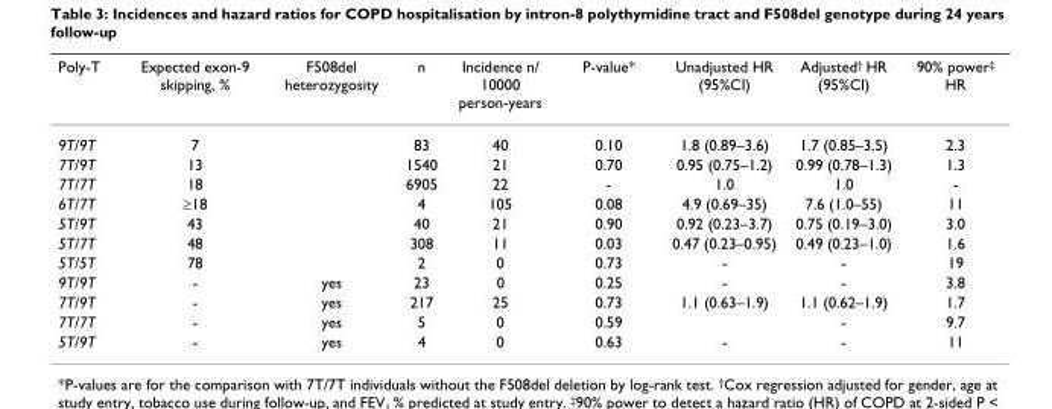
<table><thead><tr><td>Poly-T</td><td>Expected exon-9 skipping, %</td><td>F508del heterozygosity</td><td>n</td><td>Incidence n/ 10000 person-years</td><td>P-value*</td><td>Unadjusted HR (95%CI)</td><td>Adjusted<sup>†</sup> HR (95%CI)</td><td>90% power<sup>‡</sup> HR</td></tr></thead><tbody><tr><td>9T/9T</td><td>7</td><td></td><td>83</td><td>40</td><td>0.10</td><td>1.8 (0.89–3.6)</td><td>1.7 (0.85–3.5)</td><td>2.3</td></tr><tr><td>7T/9T</td><td>13</td><td></td><td>1540</td><td>21</td><td>0.70</td><td>0.95 (0.75–1.2)</td><td>0.99 (0.78–1.3)</td><td>1.3</td></tr><tr><td>7T/7T</td><td>18</td><td></td><td>6905</td><td>22</td><td>-</td><td>1.0</td><td>1.0</td><td>-</td></tr><tr><td>6T/7T</td><td>≥18</td><td></td><td>4</td><td>105</td><td>0.08</td><td>4.9 (0.69–35)</td><td>7.6 (1.0–55)</td><td>11</td></tr><tr><td>5T/9T</td><td>43</td><td></td><td>40</td><td>21</td><td>0.90</td><td>0.92 (0.23–3.7)</td><td>0.75 (0.19–3.0)</td><td>3.0</td></tr><tr><td>5T/7T</td><td>48</td><td></td><td>308</td><td>11</td><td>0.03</td><td>0.47 (0.23–0.95)</td><td>0.49 (0.23–1.0)</td><td>1.6</td></tr><tr><td>5T/5T</td><td>78</td><td></td><td>2</td><td>0</td><td>0.73</td><td>-</td><td>-</td><td>19</td></tr><tr><td>9T/9T</td><td>-</td><td>yes</td><td>23</td><td>0</td><td>0.25</td><td>-</td><td>-</td><td>3.8</td></tr><tr><td>7T/9T</td><td>-</td><td>yes</td><td>217</td><td>25</td><td>0.73</td><td>1.1 (0.63–1.9)</td><td>1.1 (0.62–1.9)</td><td>1.7</td></tr><tr><td>7T/7T</td><td>-</td><td>yes</td><td>5</td><td>0</td><td>0.59</td><td></td><td>-</td><td>9.7</td></tr><tr><td>5T/9T</td><td>-</td><td>yes</td><td>4</td><td>0</td><td>0.63</td><td>-</td><td>-</td><td>11</td></tr></tbody></table>